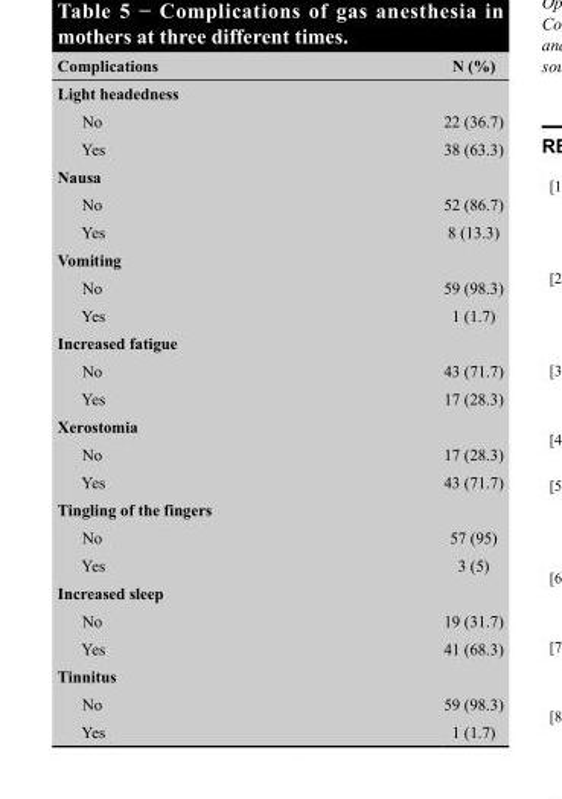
<table><thead><tr><td>Complications</td><td>N (%)</td></tr></thead><tbody><tr><td colspan="2">Light headedness</td></tr><tr><td>No</td><td>22 (36.7)</td></tr><tr><td>Yes</td><td>38 (63.3)</td></tr><tr><td colspan="2">Nausa</td></tr><tr><td>No</td><td>52 (86.7)</td></tr><tr><td>Yes</td><td>8 (13.3)</td></tr><tr><td colspan="2">Vomiting</td></tr><tr><td>No</td><td>59 (98.3)</td></tr><tr><td>Yes</td><td>1 (1.7)</td></tr><tr><td colspan="2">Increased fatigue</td></tr><tr><td>No</td><td>43 (71.7)</td></tr><tr><td>Yes</td><td>17 (28.3)</td></tr><tr><td colspan="2">Xerostomia</td></tr><tr><td>No</td><td>17 (28.3)</td></tr><tr><td>Yes</td><td>43 (71.7)</td></tr><tr><td colspan="2">Tingling of the fingers</td></tr><tr><td>No</td><td>57 (95)</td></tr><tr><td>Yes</td><td>3 (5)</td></tr><tr><td colspan="2">Increased sleep</td></tr><tr><td>No</td><td>19 (31.7)</td></tr><tr><td>Yes</td><td>41 (68.3)</td></tr><tr><td colspan="2">Tinnitus</td></tr><tr><td>No</td><td>59 (98.3)</td></tr><tr><td>Yes</td><td>1 (1.7)</td></tr></tbody></table>